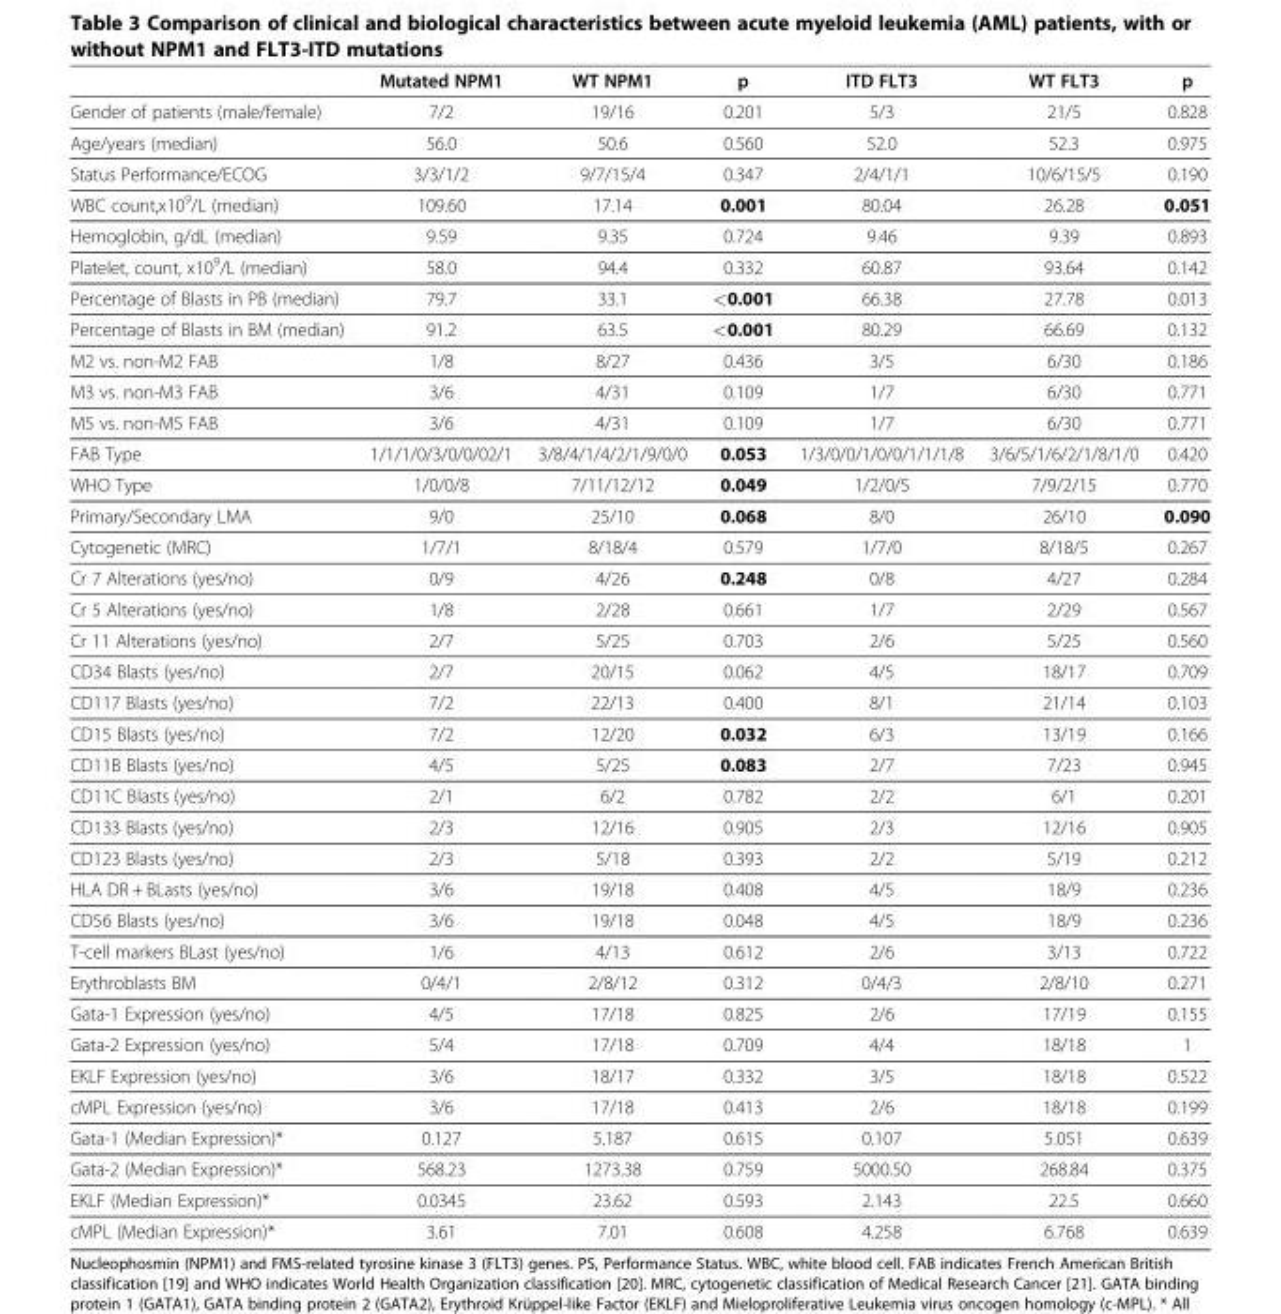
<table><thead><tr><td></td><td>Mutated NPM1</td><td>WT NPM1</td><td>p</td><td>ITD FLT3</td><td>WT FLT3</td><td>p</td></tr></thead><tbody><tr><td>Gender of patients (male/female)</td><td>7/2</td><td>19/16</td><td>0.201</td><td>5/3</td><td>21/5</td><td>0.828</td></tr><tr><td>Age/years (median)</td><td>56.0</td><td>50.6</td><td>0.560</td><td>52.0</td><td>52.3</td><td>0.975</td></tr><tr><td>Status Performance/ECOG</td><td>3/3/1/2</td><td>9/7/15/4</td><td>0.347</td><td>2/4/1/1</td><td>10/6/15/5</td><td>0.190</td></tr><tr><td>WBC count,x10<sup>9</sup>/L (median)</td><td>109.60</td><td>17.14</td><td>0.001</td><td>80.04</td><td>26.28</td><td>0.051</td></tr><tr><td>Hemoglobin, g/dL (median)</td><td>9.59</td><td>9.35</td><td>0.724</td><td>9.46</td><td>9.39</td><td>0.893</td></tr><tr><td>Platelet, count, x10<sup>9</sup>/L (median)</td><td>58.0</td><td>94.4</td><td>0.332</td><td>60.87</td><td>93.64</td><td>0.142</td></tr><tr><td>Percentage of Blasts in PB (median)</td><td>79.7</td><td>33.1</td><td>&lt;0.001</td><td>66.38</td><td>27.78</td><td>0.013</td></tr><tr><td>Percentage of Blasts in BM (median)</td><td>91.2</td><td>63.5</td><td>&lt;0.001</td><td>80.29</td><td>66.69</td><td>0.132</td></tr><tr><td>M2 vs. non-M2 FAB</td><td>1/8</td><td>8/27</td><td>0.436</td><td>3/5</td><td>6/30</td><td>0.186</td></tr><tr><td>M3 vs. non-M3 FAB</td><td>3/6</td><td>4/31</td><td>0.109</td><td>1/7</td><td>6/30</td><td>0.771</td></tr><tr><td>M5 vs. non-M5 FAB</td><td>3/6</td><td>4/31</td><td>0.109</td><td>1/7</td><td>6/30</td><td>0.771</td></tr><tr><td>FAB Type</td><td>1/1/1/0/3/0/0/02/1</td><td>3/8/4/1/4/2/1/9/0/0</td><td>0.053</td><td>1/3/0/0/1/0/0/1/1/1/8</td><td>3/6/5/1/6/2/1/8/1/0</td><td>0.420</td></tr><tr><td>WHO Type</td><td>1/0/0/8</td><td>7/11/12/12</td><td>0.049</td><td>1/2/0/5</td><td>7/9/2/15</td><td>0.770</td></tr><tr><td>Primary/Secondary LMA</td><td>9/0</td><td>25/10</td><td>0.068</td><td>8/0</td><td>26/10</td><td>0.090</td></tr><tr><td>Cytogenetic (MRC)</td><td>1/7/1</td><td>8/18/4</td><td>0.579</td><td>1/7/0</td><td>8/18/5</td><td>0.267</td></tr><tr><td>Cr 7 Alterations (yes/no)</td><td>0/9</td><td>4/26</td><td>0.248</td><td>0/8</td><td>4/27</td><td>0.284</td></tr><tr><td>Cr 5 Alterations (yes/no)</td><td>1/8</td><td>2/28</td><td>0.661</td><td>1/7</td><td>2/29</td><td>0.567</td></tr><tr><td>Cr 11 Alterations (yes/no)</td><td>2/7</td><td>5/25</td><td>0.703</td><td>2/6</td><td>5/25</td><td>0.560</td></tr><tr><td>CD34 Blasts (yes/no)</td><td>2/7</td><td>20/15</td><td>0.062</td><td>4/5</td><td>18/17</td><td>0.709</td></tr><tr><td>CD117 Blasts (yes/no)</td><td>7/2</td><td>22/13</td><td>0.400</td><td>8/1</td><td>21/14</td><td>0.103</td></tr><tr><td>CD15 Blasts (yes/no)</td><td>7/2</td><td>12/20</td><td>0.032</td><td>6/3</td><td>13/19</td><td>0.166</td></tr><tr><td>CD11B Blasts (yes/no)</td><td>4/5</td><td>5/25</td><td>0.083</td><td>2/7</td><td>7/23</td><td>0.945</td></tr><tr><td>CD11C Blasts (yes/no)</td><td>2/1</td><td>6/2</td><td>0.782</td><td>2/2</td><td>6/1</td><td>0.201</td></tr><tr><td>CD133 Blasts (yes/no)</td><td>2/3</td><td>12/16</td><td>0.905</td><td>2/3</td><td>12/16</td><td>0.905</td></tr><tr><td>CD123 Blasts (yes/no)</td><td>2/3</td><td>5/18</td><td>0.393</td><td>2/2</td><td>5/19</td><td>0.212</td></tr><tr><td>HLA DR + BLasts (yes/no)</td><td>3/6</td><td>19/18</td><td>0.408</td><td>4/5</td><td>18/9</td><td>0.236</td></tr><tr><td>CD56 Blasts (yes/no)</td><td>3/6</td><td>19/18</td><td>0.048</td><td>4/5</td><td>18/9</td><td>0.236</td></tr><tr><td>T-cell markers BLast (yes/no)</td><td>1/6</td><td>4/13</td><td>0.612</td><td>2/6</td><td>3/13</td><td>0.722</td></tr><tr><td>Erythroblasts BM</td><td>0/4/1</td><td>2/8/12</td><td>0.312</td><td>0/4/3</td><td>2/8/10</td><td>0.271</td></tr><tr><td>Gata-1 Expression (yes/no)</td><td>4/5</td><td>17/18</td><td>0.825</td><td>2/6</td><td>17/19</td><td>0.155</td></tr><tr><td>Gata-2 Expression (yes/no)</td><td>5/4</td><td>17/18</td><td>0.709</td><td>4/4</td><td>18/18</td><td>1</td></tr><tr><td>EKLF Expression (yes/no)</td><td>3/6</td><td>18/17</td><td>0.332</td><td>3/5</td><td>18/18</td><td>0.522</td></tr><tr><td>cMPL Expression (yes/no)</td><td>3/6</td><td>17/18</td><td>0.413</td><td>2/6</td><td>18/18</td><td>0.199</td></tr><tr><td>Gata-1 (Median Expression)*</td><td>0.127</td><td>5.187</td><td>0.615</td><td>0.107</td><td>5.051</td><td>0.639</td></tr><tr><td>Gata-2 (Median Expression)*</td><td>568.23</td><td>1273.38</td><td>0.759</td><td>5000.50</td><td>268.84</td><td>0.375</td></tr><tr><td>EKLF (Median Expression)*</td><td>0.0345</td><td>23.62</td><td>0.593</td><td>2.143</td><td>22.5</td><td>0.660</td></tr><tr><td>cMPL (Median Expression)*</td><td>3.61</td><td>7.01</td><td>0.608</td><td>4.258</td><td>6.768</td><td>0.639</td></tr></tbody></table>